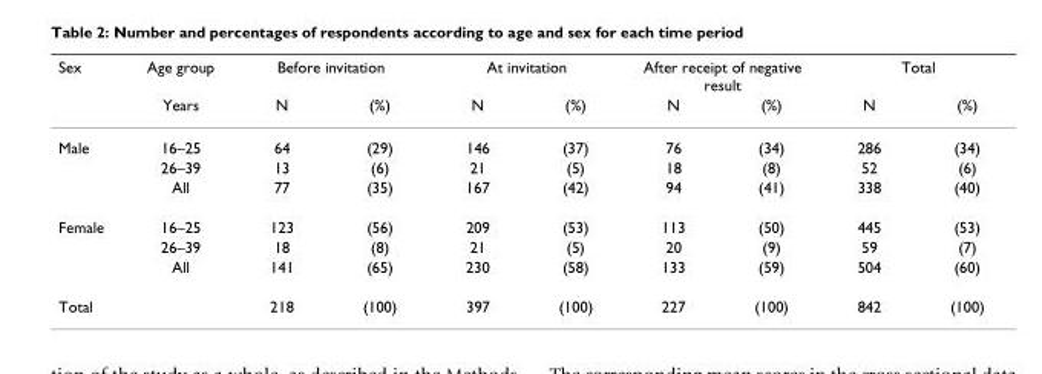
<table><thead><tr><td rowspan="2">Sex</td><td rowspan="2">Age group Years</td><td colspan="2">Before invitation</td><td colspan="2">At invitation</td><td colspan="2">After receipt of negative result</td><td colspan="2">Total</td></tr><tr><td>N</td><td>(%)</td><td>N</td><td>(%)</td><td>N</td><td>(%)</td><td>N</td><td>(%)</td></tr></thead><tbody><tr><td rowspan="3">Male</td><td>16–25</td><td>64</td><td>(29)</td><td>146</td><td>(37)</td><td>76</td><td>(34)</td><td>286</td><td>(34)</td></tr><tr><td>26–39</td><td>13</td><td>(6)</td><td>21</td><td>(5)</td><td>18</td><td>(8)</td><td>52</td><td>(6)</td></tr><tr><td>All</td><td>77</td><td>(35)</td><td>167</td><td>(42)</td><td>94</td><td>(41)</td><td>338</td><td>(40)</td></tr><tr><td rowspan="3">Female</td><td>16–25</td><td>123</td><td>(56)</td><td>209</td><td>(53)</td><td>113</td><td>(50)</td><td>445</td><td>(53)</td></tr><tr><td>26–39</td><td>18</td><td>(8)</td><td>21</td><td>(5)</td><td>20</td><td>(9)</td><td>59</td><td>(7)</td></tr><tr><td>All</td><td>141</td><td>(65)</td><td>230</td><td>(58)</td><td>133</td><td>(59)</td><td>504</td><td>(60)</td></tr><tr><td>Total</td><td></td><td>218</td><td>(100)</td><td>397</td><td>(100)</td><td>227</td><td>(100)</td><td>842</td><td>(100)</td></tr></tbody></table>